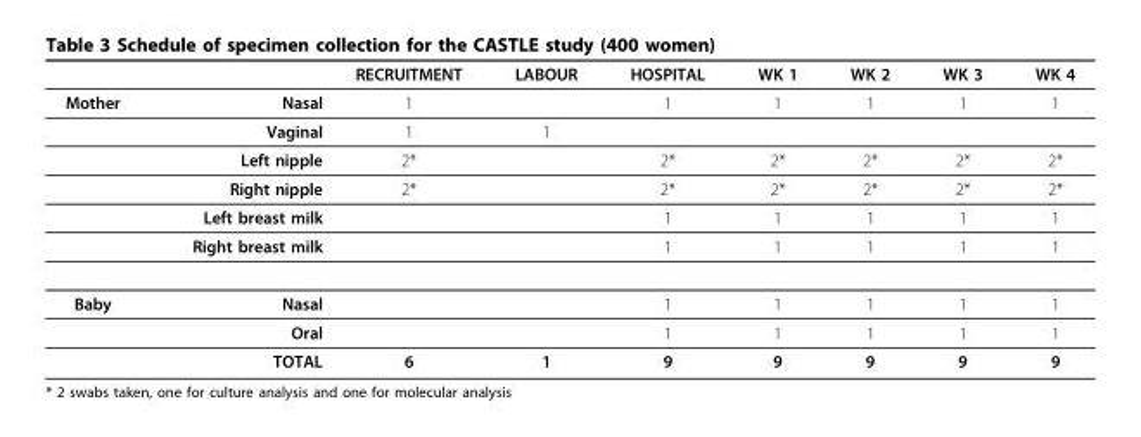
<table><thead><tr><td></td><td></td><td>RECRUITMENT</td><td>LABOUR</td><td>HOSPITAL</td><td>WK 1</td><td>WK 2</td><td>WK 3</td><td>WK 4</td></tr></thead><tbody><tr><td rowspan="6">Mother</td><td>Nasal</td><td>1</td><td></td><td>1</td><td>1</td><td>1</td><td>1</td><td>1</td></tr><tr><td>Vaginal</td><td>1</td><td>1</td><td></td><td></td><td></td><td></td><td></td></tr><tr><td>Left nipple</td><td>2*</td><td></td><td>2*</td><td>2*</td><td>2*</td><td>2*</td><td>2*</td></tr><tr><td>Right nipple</td><td>2*</td><td></td><td>2*</td><td>2*</td><td>2*</td><td>2*</td><td>2*</td></tr><tr><td>Left breast milk</td><td></td><td></td><td>1</td><td>1</td><td>1</td><td>1</td><td>1</td></tr><tr><td>Right breast milk</td><td></td><td></td><td>1</td><td>1</td><td>1</td><td>1</td><td>1</td></tr><tr><td rowspan="3">Baby</td><td>Nasal</td><td></td><td></td><td>1</td><td>1</td><td>1</td><td>1</td><td>1</td></tr><tr><td>Oral</td><td></td><td></td><td>1</td><td>1</td><td>1</td><td>1</td><td>1</td></tr><tr><td>TOTAL</td><td>6</td><td>1</td><td>9</td><td>9</td><td>9</td><td>9</td><td>9</td></tr></tbody></table>